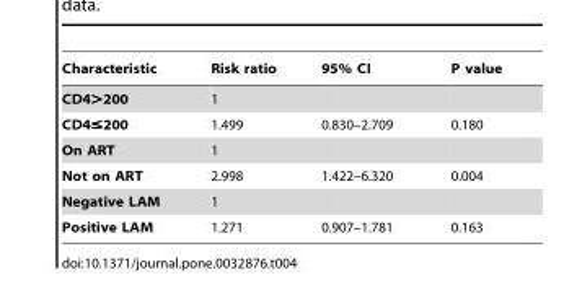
<table><thead><tr><td>Characteristic</td><td>Risk ratio</td><td>95% CI</td><td>P value</td></tr></thead><tbody><tr><td>CD4&gt;200</td><td>1</td><td></td><td></td></tr><tr><td>CD4≤200</td><td>1.499</td><td>0.830–2.709</td><td>0.180</td></tr><tr><td>On ART</td><td>1</td><td></td><td></td></tr><tr><td>Not on ART</td><td>2.998</td><td>1.422–6.320</td><td>0.004</td></tr><tr><td>Negative LAM</td><td>1</td><td></td><td></td></tr><tr><td>Positive LAM</td><td>1.271</td><td>0.907–1.781</td><td>0.163</td></tr></tbody></table>